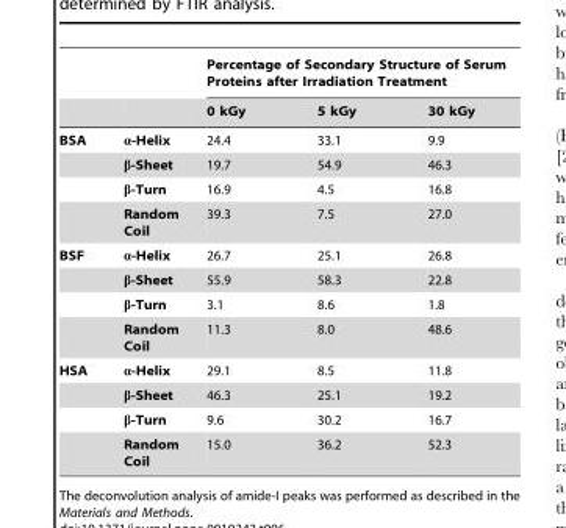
<table><thead><tr><td rowspan="2"></td><td rowspan="2"></td><td colspan="3">Percentage of Secondary Structure of Serum Proteins after Irradiation Treatment</td></tr><tr><td>0 kGy</td><td>5 kGy</td><td>30 kGy</td></tr></thead><tbody><tr><td rowspan="4">BSA</td><td>α-Helix</td><td>24.4</td><td>33.1</td><td>9.9</td></tr><tr><td>β-Sheet</td><td>19.7</td><td>54.9</td><td>46.3</td></tr><tr><td>β-Turn</td><td>16.9</td><td>4.5</td><td>16.8</td></tr><tr><td>Random Coil</td><td>39.3</td><td>7.5</td><td>27.0</td></tr><tr><td rowspan="4">BSF</td><td>α-Helix</td><td>26.7</td><td>25.1</td><td>26.8</td></tr><tr><td>β-Sheet</td><td>55.9</td><td>58.3</td><td>22.8</td></tr><tr><td>β-Turn</td><td>3.1</td><td>8.6</td><td>1.8</td></tr><tr><td>Random Coil</td><td>11.3</td><td>8.0</td><td>48.6</td></tr><tr><td rowspan="4">HSA</td><td>α-Helix</td><td>29.1</td><td>8.5</td><td>11.8</td></tr><tr><td>β-Sheet</td><td>46.3</td><td>25.1</td><td>19.2</td></tr><tr><td>β-Turn</td><td>9.6</td><td>30.2</td><td>16.7</td></tr><tr><td>Random Coil</td><td>15.0</td><td>36.2</td><td>52.3</td></tr></tbody></table>